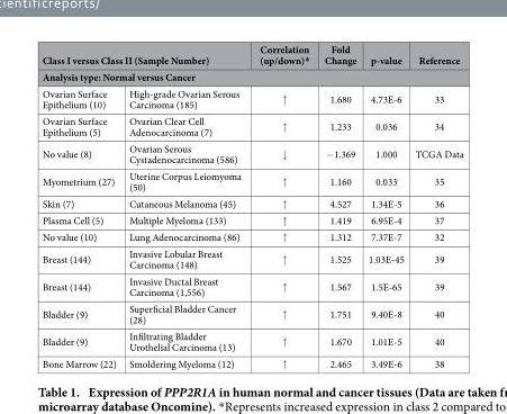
<table><thead><tr><td colspan="2">Class I versus Class II (Sample Number)</td><td>Correlation (up/down)*</td><td>Fold Change</td><td>p-value</td><td>Reference</td></tr><tr><td colspan="6">Analysis type: Normal versus Cancer</td></tr><tr><td>Ovarian Surface Epithelium (10)</td><td>High-grade Ovarian Serous Carcinoma (185)</td><td>↑</td><td>1.680</td><td>4.73E-6</td><td>33</td></tr></thead><tbody><tr><td>Ovarian Surface Epithelium (5)</td><td>Ovarian Clear Cell Adenocarcinoma (7)</td><td>↑</td><td>1.233</td><td>0.036</td><td>34</td></tr><tr><td>No value (8)</td><td>Ovarian Serous Cystadenocarcinoma (586)</td><td>↓</td><td>− 1.369</td><td>1.000</td><td>TCGA Data</td></tr><tr><td>Myometrium (27)</td><td>Uterine Corpus Leiomyoma (50)</td><td>↑</td><td>1.160</td><td>0.033</td><td>35</td></tr><tr><td>Skin (7)</td><td>Cutaneous Melanoma (45)</td><td>↑</td><td>4.527</td><td>1.34E-5</td><td>36</td></tr><tr><td>Plasma Cell (5)</td><td>Multiple Myeloma (133)</td><td>↑</td><td>1.419</td><td>6.95E-4</td><td>37</td></tr><tr><td>No value (10)</td><td>Lung Adenocarcinoma (86)</td><td>↑</td><td>1.312</td><td>7.37E-7</td><td>32</td></tr><tr><td>Breast (144)</td><td>Invasive Lobular Breast Carcinoma (148)</td><td>↑</td><td>1.525</td><td>1.03E-45</td><td>39</td></tr><tr><td>Breast (144)</td><td>Invasive Ductal Breast Carcinoma (1,556)</td><td>↑</td><td>1.567</td><td>1.5E-65</td><td>39</td></tr><tr><td>Bladder (9)</td><td>Superficial Bladder Cancer (28)</td><td>↑</td><td>1.751</td><td>9.40E-8</td><td>40</td></tr><tr><td>Bladder (9)</td><td>Infiltrating Bladder Urothelial Carcinoma (13)</td><td>↑</td><td>1.670</td><td>1.01E-5</td><td>40</td></tr><tr><td>Bone Marrow (22)</td><td>Smoldering Myeloma (12)</td><td>↑</td><td>2.465</td><td>3.49E-6</td><td>38</td></tr></tbody></table>